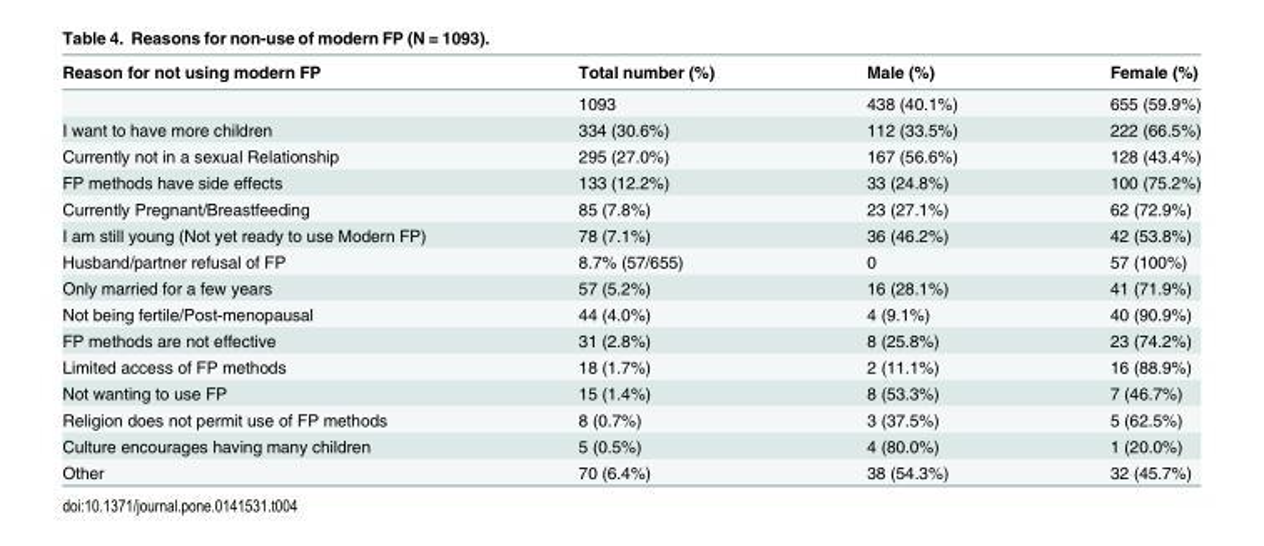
<table><thead><tr><td>Reason for not using modern FP</td><td>Total number (%)</td><td>Male (%)</td><td>Female (%)</td></tr></thead><tbody><tr><td></td><td>1093</td><td>438 (40.1%)</td><td>655 (59.9%)</td></tr><tr><td>I want to have more children</td><td>334 (30.6%)</td><td>112 (33.5%)</td><td>222 (66.5%)</td></tr><tr><td>Currently not in a sexual Relationship</td><td>295 (27.0%)</td><td>167 (56.6%)</td><td>128 (43.4%)</td></tr><tr><td>FP methods have side effects</td><td>133 (12.2%)</td><td>33 (24.8%)</td><td>100 (75.2%)</td></tr><tr><td>Currently Pregnant/Breastfeeding</td><td>85 (7.8%)</td><td>23 (27.1%)</td><td>62 (72.9%)</td></tr><tr><td>I am still young (Not yet ready to use Modern FP)</td><td>78 (7.1%)</td><td>36 (46.2%)</td><td>42 (53.8%)</td></tr><tr><td>Husband/partner refusal of FP</td><td>8.7% (57/655)</td><td>0</td><td>57 (100%)</td></tr><tr><td>Only married for a few years</td><td>57 (5.2%)</td><td>16 (28.1%)</td><td>41 (71.9%)</td></tr><tr><td>Not being fertile/Post-menopausal</td><td>44 (4.0%)</td><td>4 (9.1%)</td><td>40 (90.9%)</td></tr><tr><td>FP methods are not effective</td><td>31 (2.8%)</td><td>8 (25.8%)</td><td>23 (74.2%)</td></tr><tr><td>Limited access of FP methods</td><td>18 (1.7%)</td><td>2 (11.1%)</td><td>16 (88.9%)</td></tr><tr><td>Not wanting to use FP</td><td>15 (1.4%)</td><td>8 (53.3%)</td><td>7 (46.7%)</td></tr><tr><td>Religion does not permit use of FP methods</td><td>8 (0.7%)</td><td>3 (37.5%)</td><td>5 (62.5%)</td></tr><tr><td>Culture encourages having many children</td><td>5 (0.5%)</td><td>4 (80.0%)</td><td>1 (20.0%)</td></tr><tr><td>Other</td><td>70 (6.4%)</td><td>38 (54.3%)</td><td>32 (45.7%)</td></tr></tbody></table>